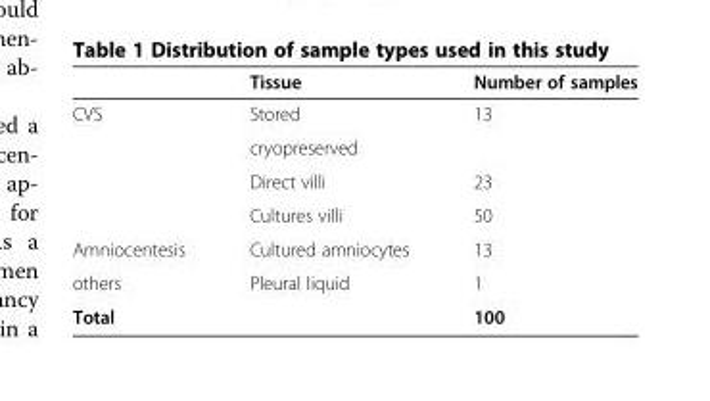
<table><thead><tr><td></td><td>Tissue</td><td>Number of samples</td></tr></thead><tbody><tr><td rowspan="4">CVS</td><td>Stored</td><td rowspan="2">13</td></tr><tr><td>cryopreserved</td></tr><tr><td>Direct villi</td><td>23</td></tr><tr><td>Cultures villi</td><td>50</td></tr><tr><td>Amniocentesis</td><td>Cultured amniocytes</td><td>13</td></tr><tr><td>others</td><td>Pleural liquid</td><td>1</td></tr><tr><td>Total</td><td></td><td>100</td></tr></tbody></table>